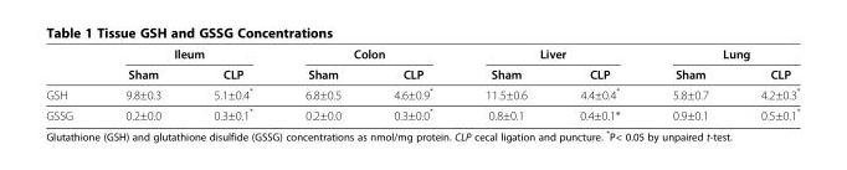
<table><thead><tr><td rowspan="2"></td><td colspan="2">Ileum</td><td colspan="2">Colon</td><td colspan="2">Liver</td><td colspan="2">Lung</td></tr><tr><td>Sham</td><td>CLP</td><td>Sham</td><td>CLP</td><td>Sham</td><td>CLP</td><td>Sham</td><td>CLP</td></tr></thead><tbody><tr><td>GSH</td><td>9.8±0.3</td><td>5.1±0.4*</td><td>6.8±0.5</td><td>4.6±0.9*</td><td>11.5±0.6</td><td>4.4±0.4*</td><td>5.8±0.7</td><td>4.2±0.3*</td></tr><tr><td>GSSG</td><td>0.2±0.0</td><td>0.3±0.1*</td><td>0.2±0.0</td><td>0.3±0.0*</td><td>0.8±0.1</td><td>0.4±0.1*</td><td>0.9±0.1</td><td>0.5±0.1*</td></tr></tbody></table>